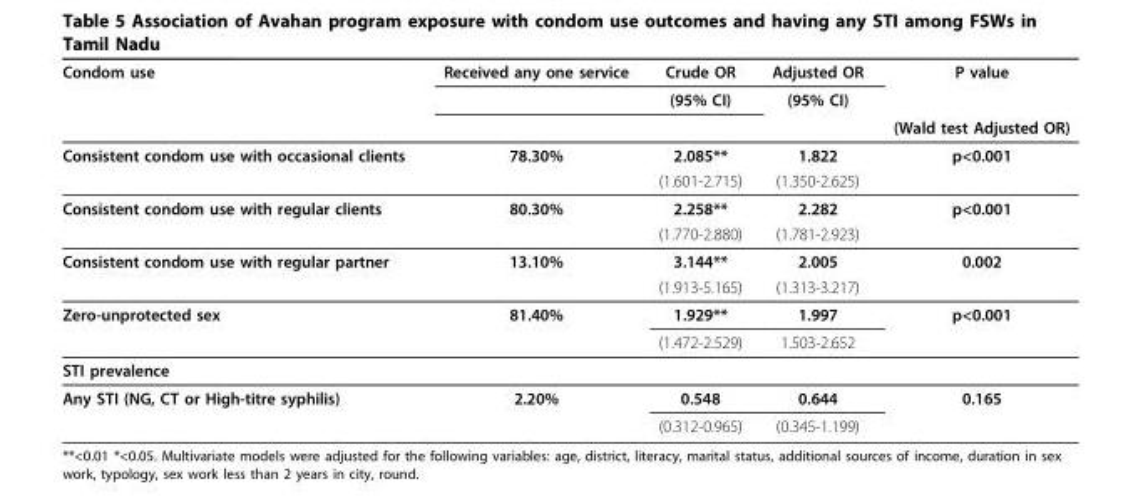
<table><thead><tr><td rowspan="3">Condom use</td><td rowspan="3">Received any one service</td><td rowspan="3">Crude OR (95% CI)</td><td rowspan="3">Adjusted OR (95% CI)</td><td rowspan="3">P value (Wald test Adjusted OR)</td></tr><tr></tr><tr></tr></thead><tbody><tr><td rowspan="2">Consistent condom use with occasional clients</td><td>78.30%</td><td>2.085**</td><td>1.822</td><td>p&lt;0.001</td></tr><tr><td></td><td>(1.601-2.715)</td><td>(1.350-2.625)</td><td></td></tr><tr><td rowspan="2">Consistent condom use with regular clients</td><td>80.30%</td><td>2.258**</td><td>2.282</td><td>p&lt;0.001</td></tr><tr><td></td><td>(1.770-2.880)</td><td>(1.781-2.923)</td><td></td></tr><tr><td rowspan="2">Consistent condom use with regular partner</td><td>13.10%</td><td>3.144**</td><td>2.005</td><td>0.002</td></tr><tr><td></td><td>(1.913-5.165)</td><td>(1.313-3.217)</td><td></td></tr><tr><td rowspan="2">Zero-unprotected sex</td><td>81.40%</td><td>1.929**</td><td>1.997</td><td>p&lt;0.001</td></tr><tr><td></td><td>(1.472-2.529)</td><td>1.503-2.652</td><td></td></tr><tr><td colspan="5">STI prevalence</td></tr><tr><td rowspan="2">Any STI (NG, CT or High-titre syphilis)</td><td>2.20%</td><td>0.548</td><td>0.644</td><td>0.165</td></tr><tr><td></td><td>(0.312-0.965)</td><td>(0.345-1.199)</td><td></td></tr></tbody></table>